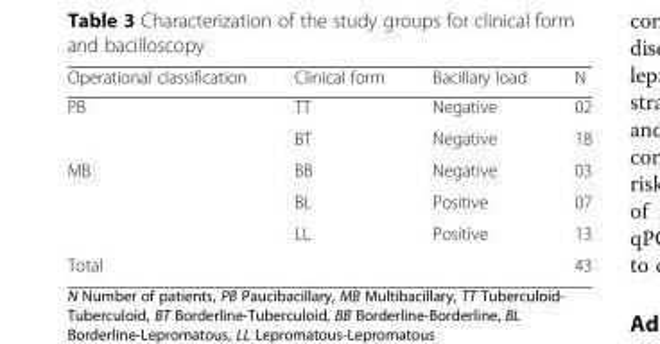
<table><thead><tr><td>Operational classification</td><td>Clinical form</td><td>Bacillary load</td><td>N</td></tr></thead><tbody><tr><td rowspan="2">PB</td><td>TT</td><td>Negative</td><td>02</td></tr><tr><td>BT</td><td>Negative</td><td>18</td></tr><tr><td rowspan="3">MB</td><td>BB</td><td>Negative</td><td>03</td></tr><tr><td>BL</td><td>Positive</td><td>07</td></tr><tr><td>LL</td><td>Positive</td><td>13</td></tr><tr><td>Total</td><td></td><td></td><td>43</td></tr></tbody></table>